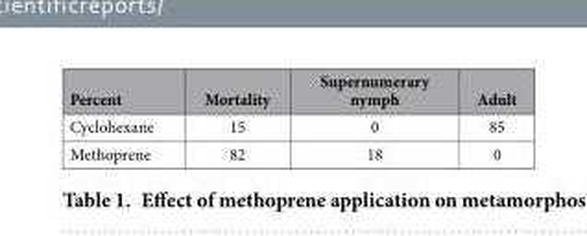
<table><thead><tr><td>Percent</td><td>Mortality</td><td>Supernumerary nymph</td><td>Adult</td></tr></thead><tbody><tr><td>Cyclohexane</td><td>15</td><td>0</td><td>85</td></tr><tr><td>Methoprene</td><td>82</td><td>18</td><td>0</td></tr></tbody></table>